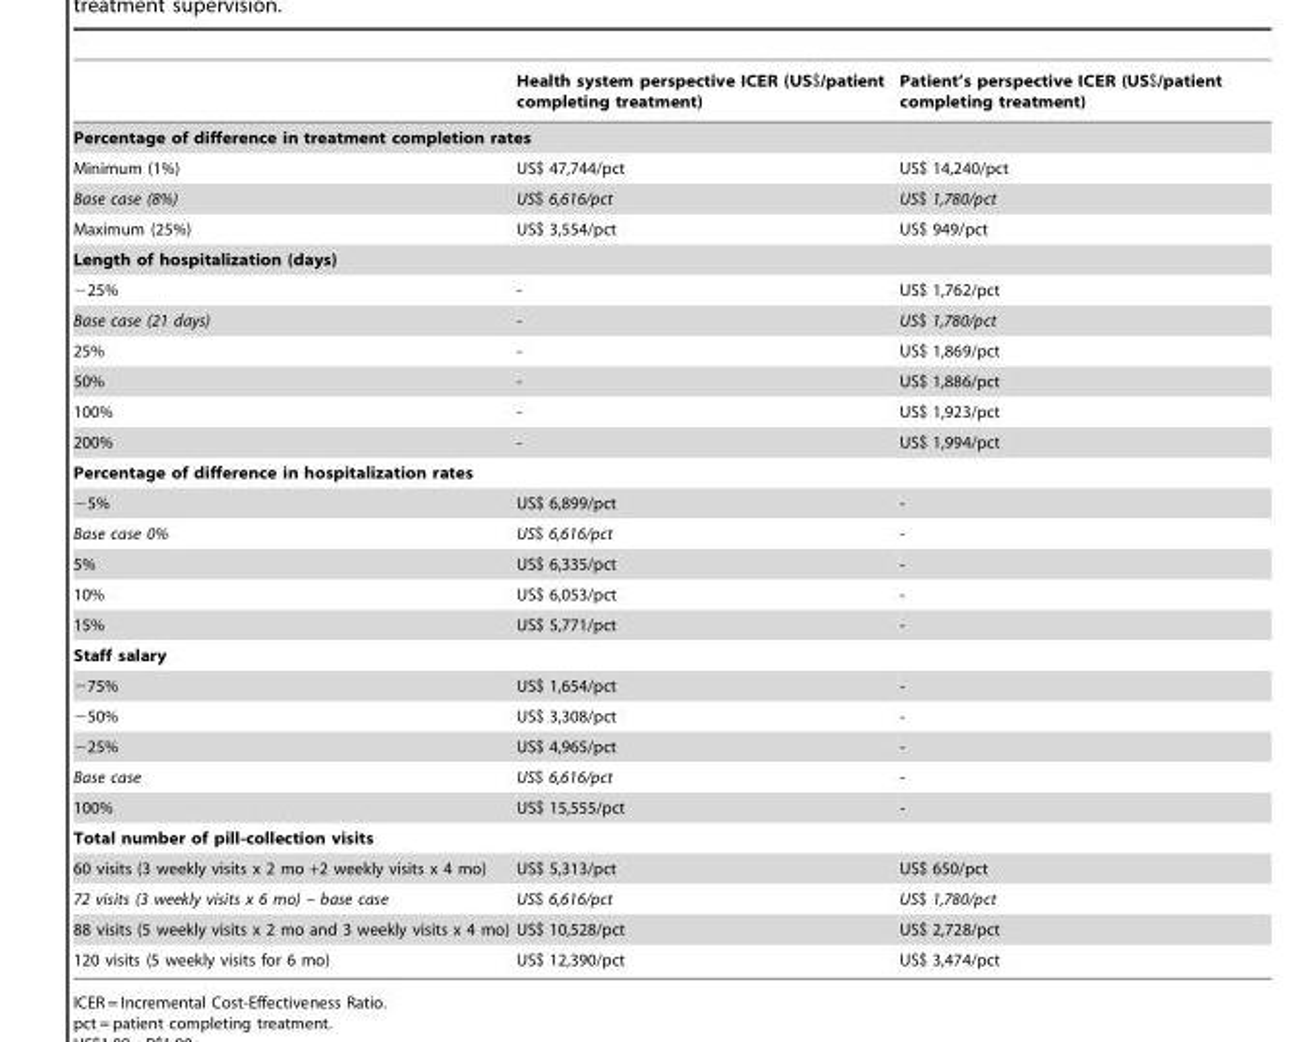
<table><thead><tr><td></td><td>Health system perspective ICER (US$/patient completing treatment)</td><td>Patient’s perspective ICER (US$/patient completing treatment)</td></tr></thead><tbody><tr><td colspan="3">Percentage of difference in treatment completion rates</td></tr><tr><td>Minimum (1%)</td><td>US$ 47,744/pct</td><td>US$ 14,240/pct</td></tr><tr><td>Base case (8%)</td><td>US$ 6,616/pct</td><td>US$ 1,780/pct</td></tr><tr><td>Maximum (25%)</td><td>US$ 3,554/pct</td><td>US$ 949/pct</td></tr><tr><td colspan="3">Length of hospitalization (days)</td></tr><tr><td>−25%</td><td>-</td><td>US$ 1,762/pct</td></tr><tr><td>Base case (21 days)</td><td>-</td><td>US$ 1,780/pct</td></tr><tr><td>25%</td><td>-</td><td>US$ 1,869/pct</td></tr><tr><td>50%</td><td>-</td><td>US$ 1,886/pct</td></tr><tr><td>100%</td><td>-</td><td>US$ 1,923/pct</td></tr><tr><td>200%</td><td>-</td><td>US$ 1,994/pct</td></tr><tr><td colspan="3">Percentage of difference in hospitalization rates</td></tr><tr><td>−5%</td><td>US$ 6,899/pct</td><td>-</td></tr><tr><td>Base case 0%</td><td>US$ 6,616/pct</td><td>-</td></tr><tr><td>5%</td><td>US$ 6,335/pct</td><td>-</td></tr><tr><td>10%</td><td>US$ 6,053/pct</td><td>-</td></tr><tr><td>15%</td><td>US$ 5,771/pct</td><td>-</td></tr><tr><td colspan="3">Staff salary</td></tr><tr><td>−75%</td><td>US$ 1,654/pct</td><td>-</td></tr><tr><td>−50%</td><td>US$ 3,308/pct</td><td>-</td></tr><tr><td>−25%</td><td>US$ 4,965/pct</td><td>-</td></tr><tr><td>Base case</td><td>US$ 6,616/pct</td><td>-</td></tr><tr><td>100%</td><td>US$ 15,555/pct</td><td>-</td></tr><tr><td colspan="3">Total number of pill-collection visits</td></tr><tr><td>60 visits (3 weekly visits x 2 mo +2 weekly visits x 4 mo)</td><td>US$ 5,313/pct</td><td>US$ 650/pct</td></tr><tr><td>72 visits (3 weekly visits x 6 mo) – base case</td><td>US$ 6,616/pct</td><td>US$ 1,780/pct</td></tr><tr><td>88 visits (5 weekly visits x 2 mo and 3 weekly visits x 4 mo)</td><td>US$ 10,528/pct</td><td>US$ 2,728/pct</td></tr><tr><td>120 visits (5 weekly visits for 6 mo)</td><td>US$ 12,390/pct</td><td>US$ 3,474/pct</td></tr></tbody></table>